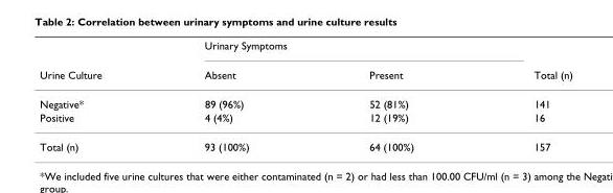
<table><thead><tr><td rowspan="2">Urine Culture</td><td colspan="2">Urinary Symptoms</td><td rowspan="2">Total (n)</td></tr><tr><td>Absent</td><td>Present</td></tr></thead><tbody><tr><td>Negative*</td><td>89 (96%)</td><td>52 (81%)</td><td>141</td></tr><tr><td>Positive</td><td>4 (4%)</td><td>12 (19%)</td><td>16</td></tr><tr><td>Total (n)</td><td>93 (100%)</td><td>64 (100%)</td><td>157</td></tr></tbody></table>